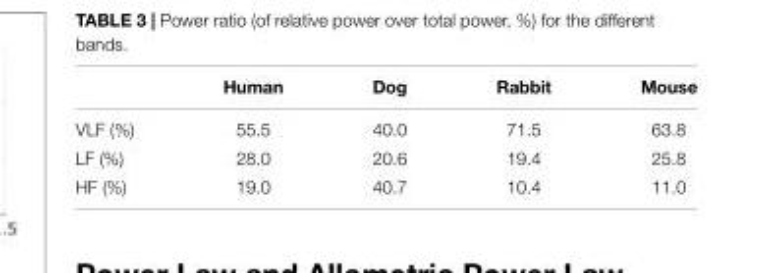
<table><thead><tr><td></td><td>Human</td><td>Dog</td><td>Rabbit</td><td>Mouse</td></tr></thead><tbody><tr><td>VLF (%)</td><td>55.5</td><td>40.0</td><td>71.5</td><td>63.8</td></tr><tr><td>LF (%)</td><td>28.0</td><td>20.6</td><td>19.4</td><td>25.8</td></tr><tr><td>HF (%)</td><td>19.0</td><td>40.7</td><td>10.4</td><td>11.0</td></tr></tbody></table>